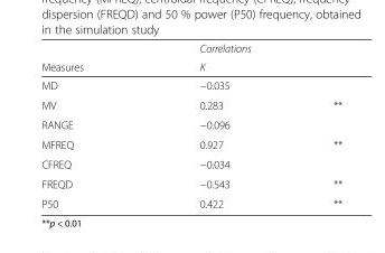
<table><thead><tr><td rowspan="2">Measures</td><td rowspan="2">Correlations K</td><td rowspan="2"></td></tr><tr></tr></thead><tbody><tr><td>MD</td><td>−0.035</td><td></td></tr><tr><td>MV</td><td>0.283</td><td>**</td></tr><tr><td>RANGE</td><td>−0.096</td><td></td></tr><tr><td>MFREQ</td><td>0.927</td><td>**</td></tr><tr><td>CFREQ</td><td>−0.034</td><td></td></tr><tr><td>FREQD</td><td>−0.543</td><td>**</td></tr><tr><td>P50</td><td>0.422</td><td>**</td></tr></tbody></table>